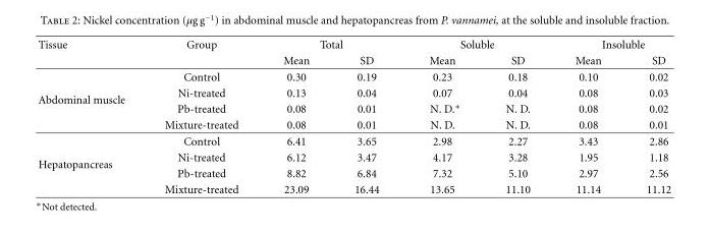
<table><thead><tr><td rowspan="2">Tissue</td><td rowspan="2">Group</td><td colspan="2">Total</td><td colspan="2">Soluble</td><td colspan="2">Insoluble</td></tr><tr><td>Mean</td><td>SD</td><td>Mean</td><td>SD</td><td>Mean</td><td>SD</td></tr></thead><tbody><tr><td rowspan="4">Abdominal muscle</td><td>Control</td><td>0.30</td><td>0.19</td><td>0.23</td><td>0.18</td><td>0.10</td><td>0.02</td></tr><tr><td>Ni-treated</td><td>0.13</td><td>0.04</td><td>0.07</td><td>0.04</td><td>0.08</td><td>0.03</td></tr><tr><td>Pb-treated</td><td>0.08</td><td>0.01</td><td>N. D.∗</td><td>N. D.</td><td>0.08</td><td>0.02</td></tr><tr><td>Mixture-treated</td><td>0.08</td><td>0.01</td><td>N. D.</td><td>N. D.</td><td>0.08</td><td>0.01</td></tr><tr><td rowspan="4">Hepatopancreas</td><td>Control</td><td>6.41</td><td>3.65</td><td>2.98</td><td>2.27</td><td>3.43</td><td>2.86</td></tr><tr><td>Ni-treated</td><td>6.12</td><td>3.47</td><td>4.17</td><td>3.28</td><td>1.95</td><td>1.18</td></tr><tr><td>Pb-treated</td><td>8.82</td><td>6.84</td><td>7.32</td><td>5.10</td><td>2.97</td><td>2.56</td></tr><tr><td>Mixture-treated</td><td>23.09</td><td>16.44</td><td>13.65</td><td>11.10</td><td>11.14</td><td>11.12</td></tr></tbody></table>